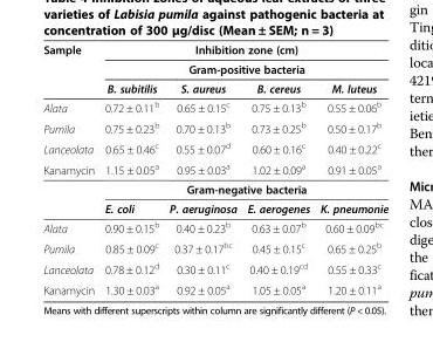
<table><thead><tr><td rowspan="3">Sample</td><td rowspan="2" colspan="4">Inhibition zone (cm) Gram-positive bacteria</td></tr><tr></tr><tr><td>B. subitilis</td><td>S. aureus</td><td>B. cereus</td><td>M. luteus</td></tr></thead><tbody><tr><td>Alata</td><td>0.72 ± 0.11<sup>b</sup></td><td>0.65 ± 0.15<sup>c</sup></td><td>0.75 ± 0.13<sup>b</sup></td><td>0.55 ± 0.06<sup>b</sup></td></tr><tr><td>Pumila</td><td>0.75 ± 0.23<sup>b</sup></td><td>0.70 ± 0.13<sup>b</sup></td><td>0.73 ± 0.25<sup>b</sup></td><td>0.50 ± 0.17<sup>b</sup></td></tr><tr><td>Lanceolata</td><td>0.65 ± 0.46<sup>c</sup></td><td>0.55 ± 0.07<sup>d</sup></td><td>0.60 ± 0.16<sup>c</sup></td><td>0.40 ± 0.22<sup>c</sup></td></tr><tr><td rowspan="3">Kanamycin</td><td>1.15 ± 0.05<sup>a</sup></td><td>0.95 ± 0.03<sup>a</sup></td><td>1.02 ± 0.09<sup>a</sup></td><td>0.91 ± 0.05<sup>a</sup></td></tr><tr><td colspan="4">Gram-negative bacteria</td></tr><tr><td>E. coli</td><td>P. aeruginosa</td><td>E. aerogenes</td><td>K. pneumonie</td></tr><tr><td>Alata</td><td>0.90 ± 0.15<sup>b</sup></td><td>0.40 ± 0.23<sup>b</sup></td><td>0.63 ± 0.07<sup>b</sup></td><td>0.60 ± 0.09<sup>bc</sup></td></tr><tr><td>Pumila</td><td>0.85 ± 0.09<sup>c</sup></td><td>0.37 ± 0.17<sup>bc</sup></td><td>0.45 ± 0.15<sup>c</sup></td><td>0.65 ± 0.25<sup>b</sup></td></tr><tr><td>Lanceolata</td><td>0.78 ± 0.12<sup>d</sup></td><td>0.30 ± 0.11<sup>c</sup></td><td>0.40 ± 0.19<sup>cd</sup></td><td>0.55 ± 0.33<sup>c</sup></td></tr><tr><td>Kanamycin</td><td>1.30 ± 0.03<sup>a</sup></td><td>0.92 ± 0.05<sup>a</sup></td><td>1.05 ± 0.05<sup>a</sup></td><td>1.20 ± 0.11<sup>a</sup></td></tr></tbody></table>